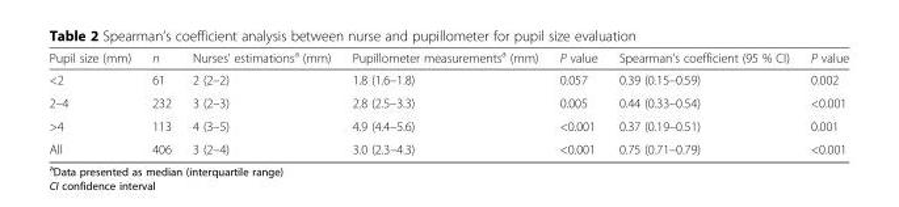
<table><thead><tr><td>Pupil size (mm)</td><td>n</td><td>Nurses’ estimations<sup>a</sup> (mm)</td><td>Pupillometer measurements<sup>a</sup> (mm)</td><td>P value</td><td>Spearman&#x27;s coefficient (95 % CI)</td><td>P value</td></tr></thead><tbody><tr><td>&lt;2</td><td>61</td><td>2 (2–2)</td><td>1.8 (1.6–1.8)</td><td>0.057</td><td>0.39 (0.15–0.59)</td><td>0.002</td></tr><tr><td>2–4</td><td>232</td><td>3 (2–3)</td><td>2.8 (2.5–3.3)</td><td>0.005</td><td>0.44 (0.33–0.54)</td><td>&lt;0.001</td></tr><tr><td>&gt;4</td><td>113</td><td>4 (3–5)</td><td>4.9 (4.4–5.6)</td><td>&lt;0.001</td><td>0.37 (0.19–0.51)</td><td>0.001</td></tr><tr><td>All</td><td>406</td><td>3 (2–4)</td><td>3.0 (2.3–4.3)</td><td>&lt;0.001</td><td>0.75 (0.71–0.79)</td><td>&lt;0.001</td></tr></tbody></table>